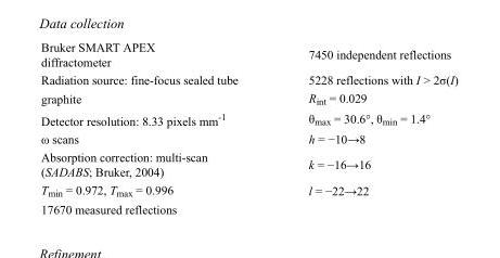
<table><tbody><tr><td>Bruker SMART APEX diffractometer</td><td>7450 independent reflections</td></tr><tr><td>Radiation source: fine-focus sealed tube</td><td>5228 reflections with I &gt; 2σ(I)</td></tr><tr><td>graphite</td><td>R<sub>int</sub> = 0.029</td></tr><tr><td>Detector resolution: 8.33 pixels mm<sup>-1</sup></td><td>θ<sub>max</sub> = 30.6°, θ<sub>min</sub> = 1.4°</td></tr><tr><td>ω scans</td><td>h = −10→8</td></tr><tr><td>Absorption correction: multi-scan (SADABS; Bruker, 2004)</td><td>k = −16→16</td></tr><tr><td>T<sub>min</sub> = 0.972, T<sub>max</sub> = 0.996</td><td>l = −22→22</td></tr><tr><td>17670 measured reflections</td><td></td></tr></tbody></table>